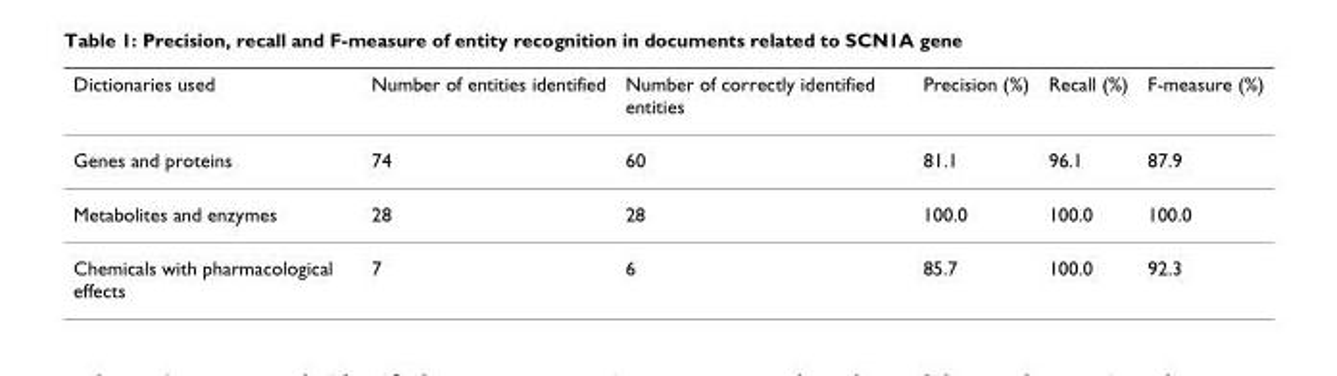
<table><thead><tr><td>Dictionaries used</td><td>Number of entities identified</td><td>Number of correctly identified entities</td><td>Precision (%)</td><td>Recall (%)</td><td>F-measure (%)</td></tr></thead><tbody><tr><td>Genes and proteins</td><td>74</td><td>60</td><td>81.1</td><td>96.1</td><td>87.9</td></tr><tr><td>Metabolites and enzymes</td><td>28</td><td>28</td><td>100.0</td><td>100.0</td><td>100.0</td></tr><tr><td>Chemicals with pharmacological effects</td><td>7</td><td>6</td><td>85.7</td><td>100.0</td><td>92.3</td></tr></tbody></table>